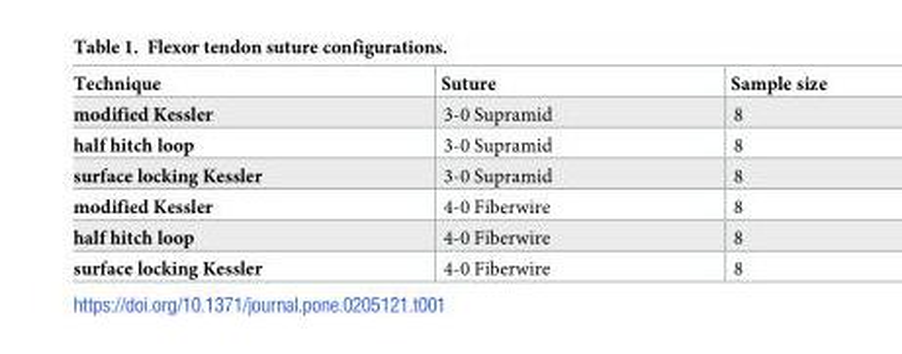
<table><thead><tr><td>Technique</td><td>Suture</td><td>Sample size</td></tr></thead><tbody><tr><td>modified Kessler</td><td>3-0 Supramid</td><td>8</td></tr><tr><td>half hitch loop</td><td>3-0 Supramid</td><td>8</td></tr><tr><td>surface locking Kessler</td><td>3-0 Supramid</td><td>8</td></tr><tr><td>modified Kessler</td><td>4-0 Fiberwire</td><td>8</td></tr><tr><td>half hitch loop</td><td>4-0 Fiberwire</td><td>8</td></tr><tr><td>surface locking Kessler</td><td>4-0 Fiberwire</td><td>8</td></tr></tbody></table>